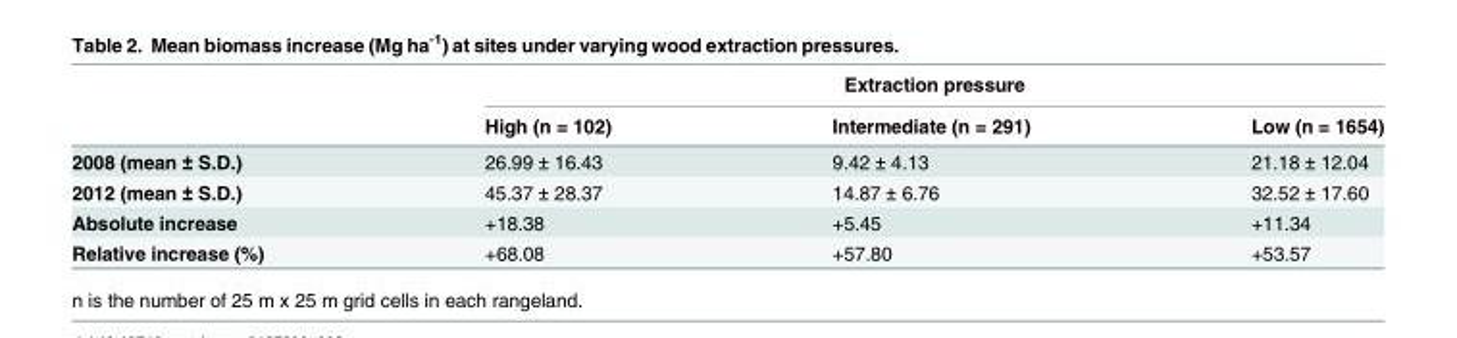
<table><thead><tr><td rowspan="2"></td><td colspan="3">Extraction pressure</td></tr><tr><td>High (n = 102)</td><td>Intermediate (n = 291)</td><td>Low (n = 1654)</td></tr></thead><tbody><tr><td>2008 (mean ± S.D.)</td><td>26.99 ± 16.43</td><td>9.42 ± 4.13</td><td>21.18 ± 12.04</td></tr><tr><td>2012 (mean ± S.D.)</td><td>45.37 ± 28.37</td><td>14.87 ± 6.76</td><td>32.52 ± 17.60</td></tr><tr><td>Absolute increase</td><td>+18.38</td><td>+5.45</td><td>+11.34</td></tr><tr><td>Relative increase (%)</td><td>+68.08</td><td>+57.80</td><td>+53.57</td></tr></tbody></table>